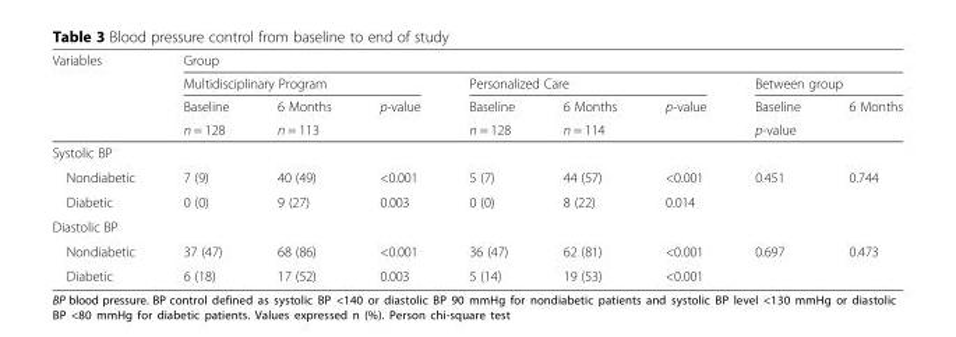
<table><thead><tr><td rowspan="4">Variables</td><td colspan="8">Group</td></tr><tr><td colspan="3">Multidisciplinary Program</td><td colspan="3">Personalized Care</td><td colspan="2">Between group</td></tr><tr><td rowspan="2">Baseline n = 128</td><td rowspan="2">6 Months n = 113</td><td rowspan="2">p-value</td><td rowspan="2">Baseline n = 128</td><td rowspan="2">6 Months n = 114</td><td rowspan="2">p-value</td><td>Baseline</td><td>6 Months</td></tr><tr><td colspan="2">p-value</td></tr></thead><tbody><tr><td colspan="9">Systolic BP</td></tr><tr><td>Nondiabetic</td><td>7 (9)</td><td>40 (49)</td><td>&lt;0.001</td><td>5 (7)</td><td>44 (57)</td><td>&lt;0.001</td><td rowspan="2">0.451</td><td rowspan="2">0.744</td></tr><tr><td>Diabetic</td><td>0 (0)</td><td>9 (27)</td><td>0.003</td><td>0 (0)</td><td>8 (22)</td><td>0.014</td></tr><tr><td colspan="9">Diastolic BP</td></tr><tr><td>Nondiabetic</td><td>37 (47)</td><td>68 (86)</td><td>&lt;0.001</td><td>36 (47)</td><td>62 (81)</td><td>&lt;0.001</td><td rowspan="2">0.697</td><td rowspan="2">0.473</td></tr><tr><td>Diabetic</td><td>6 (18)</td><td>17 (52)</td><td>0.003</td><td>5 (14)</td><td>19 (53)</td><td>&lt;0.001</td></tr></tbody></table>